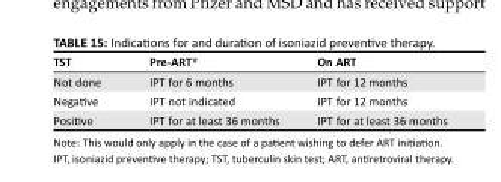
<table><thead><tr><td>TST</td><td>Pre-ART*</td><td>On ART</td></tr></thead><tbody><tr><td>Not done</td><td>IPT for 6 months</td><td>IPT for 12 months</td></tr><tr><td>Negative</td><td>IPT not indicated</td><td>IPT for 12 months</td></tr><tr><td>Positive</td><td>IPT for at least 36 months</td><td>IPT for at least 36 months</td></tr></tbody></table>